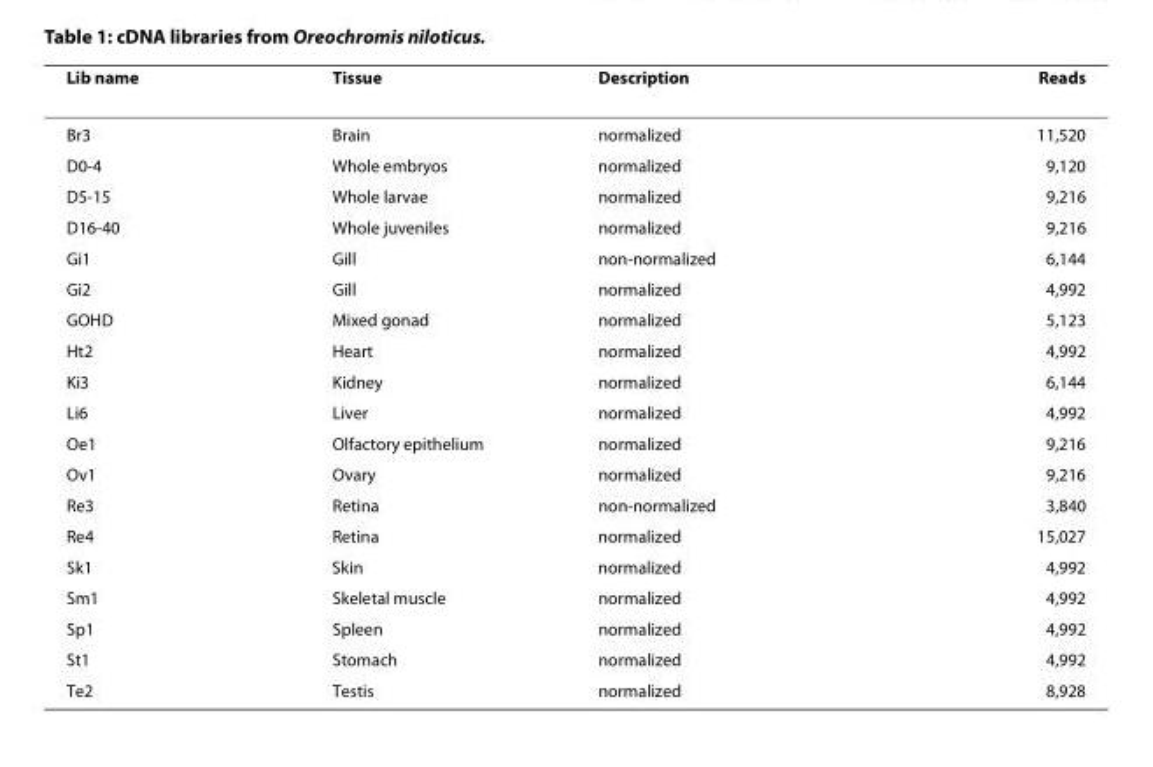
<table><thead><tr><td>Lib name</td><td>Tissue</td><td>Description</td><td>Reads</td></tr></thead><tbody><tr><td>Br3</td><td>Brain</td><td>normalized</td><td>11,520</td></tr><tr><td>D0-4</td><td>Whole embryos</td><td>normalized</td><td>9,120</td></tr><tr><td>D5-15</td><td>Whole larvae</td><td>normalized</td><td>9,216</td></tr><tr><td>D16-40</td><td>Whole juveniles</td><td>normalized</td><td>9,216</td></tr><tr><td>Gi1</td><td>Gill</td><td>non-normalized</td><td>6,144</td></tr><tr><td>Gi2</td><td>Gill</td><td>normalized</td><td>4,992</td></tr><tr><td>GOHD</td><td>Mixed gonad</td><td>normalized</td><td>5,123</td></tr><tr><td>Ht2</td><td>Heart</td><td>normalized</td><td>4,992</td></tr><tr><td>Ki3</td><td>Kidney</td><td>normalized</td><td>6,144</td></tr><tr><td>Li6</td><td>Liver</td><td>normalized</td><td>4,992</td></tr><tr><td>Oe1</td><td>Olfactory epithelium</td><td>normalized</td><td>9,216</td></tr><tr><td>Ov1</td><td>Ovary</td><td>normalized</td><td>9,216</td></tr><tr><td>Re3</td><td>Retina</td><td>non-normalized</td><td>3,840</td></tr><tr><td>Re4</td><td>Retina</td><td>normalized</td><td>15,027</td></tr><tr><td>Sk1</td><td>Skin</td><td>normalized</td><td>4,992</td></tr><tr><td>Sm1</td><td>Skeletal muscle</td><td>normalized</td><td>4,992</td></tr><tr><td>Sp1</td><td>Spleen</td><td>normalized</td><td>4,992</td></tr><tr><td>St1</td><td>Stomach</td><td>normalized</td><td>4,992</td></tr><tr><td>Te2</td><td>Testis</td><td>normalized</td><td>8,928</td></tr></tbody></table>